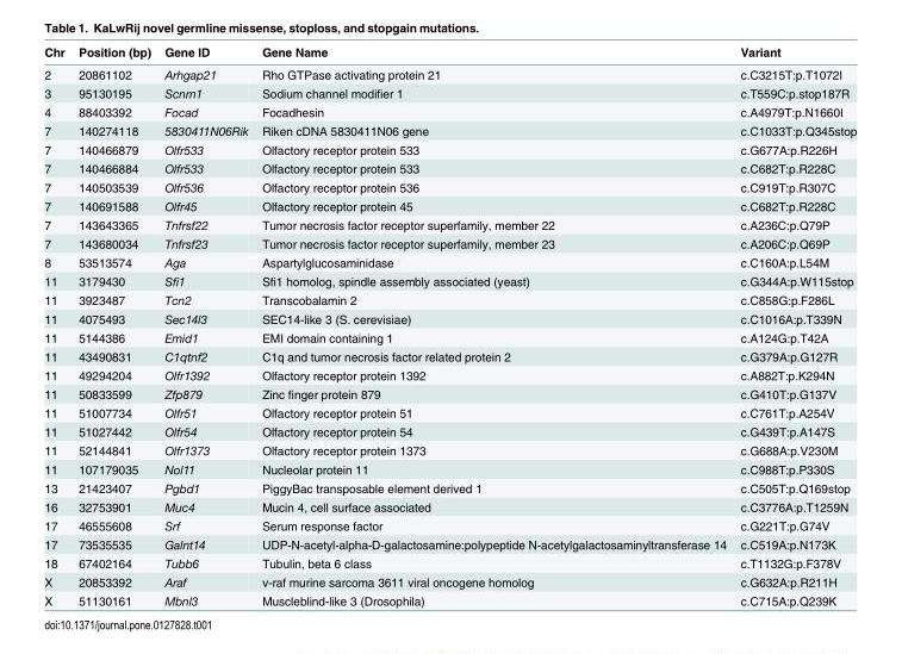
<table><thead><tr><td>Chr</td><td>Position (bp)</td><td>Gene ID</td><td>Gene Name</td><td>Variant</td></tr></thead><tbody><tr><td>2</td><td>20861102</td><td>Arhgap21</td><td>Rho GTPase activating protein 21</td><td>c.C3215T:p.T1072I</td></tr><tr><td>3</td><td>95130195</td><td>Scnm1</td><td>Sodium channel modifier 1</td><td>c.T559C:p.stop187R</td></tr><tr><td>4</td><td>88403392</td><td>Focad</td><td>Focadhesin</td><td>c.A4979T:p.N1660I</td></tr><tr><td>7</td><td>140274118</td><td>5830411N06Rik</td><td>Riken cDNA 5830411N06 gene</td><td>c.C1033T:p.Q345stop</td></tr><tr><td>7</td><td>140466879</td><td>Olfr533</td><td>Olfactory receptor protein 533</td><td>c.G677A:p.R226H</td></tr><tr><td>7</td><td>140466884</td><td>Olfr533</td><td>Olfactory receptor protein 533</td><td>c.C682T:p.R228C</td></tr><tr><td>7</td><td>140503539</td><td>Olfr536</td><td>Olfactory receptor protein 536</td><td>c.C919T:p.R307C</td></tr><tr><td>7</td><td>140691588</td><td>Olfr45</td><td>Olfactory receptor protein 45</td><td>c.C682T:p.R228C</td></tr><tr><td>7</td><td>143643365</td><td>Tnfrsf22</td><td>Tumor necrosis factor receptor superfamily, member 22</td><td>c.A236C:p.Q79P</td></tr><tr><td>7</td><td>143680034</td><td>Tnfrsf23</td><td>Tumor necrosis factor receptor superfamily, member 23</td><td>c.A206C:p.Q69P</td></tr><tr><td>8</td><td>53513574</td><td>Aga</td><td>Aspartylglucosaminidase</td><td>c.C160A:p.L54M</td></tr><tr><td>11</td><td>3179430</td><td>Sfi1</td><td>Sfi1 homolog, spindle assembly associated (yeast)</td><td>c.G344A:p.W115stop</td></tr><tr><td>11</td><td>3923487</td><td>Tcn2</td><td>Transcobalamin 2</td><td>c.C858G:p.F286L</td></tr><tr><td>11</td><td>4075493</td><td>Sec14l3</td><td>SEC14-like 3 (S. cerevisiae)</td><td>c.C1016A:p.T339N</td></tr><tr><td>11</td><td>5144386</td><td>Emid1</td><td>EMI domain containing 1</td><td>c.A124G:p.T42A</td></tr><tr><td>11</td><td>43490831</td><td>C1qtnf2</td><td>C1q and tumor necrosis factor related protein 2</td><td>c.G379A:p.G127R</td></tr><tr><td>11</td><td>49294204</td><td>Olfr1392</td><td>Olfactory receptor protein 1392</td><td>c.A882T:p.K294N</td></tr><tr><td>11</td><td>50833599</td><td>Zfp879</td><td>Zinc finger protein 879</td><td>c.G410T:p.G137V</td></tr><tr><td>11</td><td>51007734</td><td>Olfr51</td><td>Olfactory receptor protein 51</td><td>c.C761T:p.A254V</td></tr><tr><td>11</td><td>51027442</td><td>Olfr54</td><td>Olfactory receptor protein 54</td><td>c.G439T:p.A147S</td></tr><tr><td>11</td><td>52144841</td><td>Olfr1373</td><td>Olfactory receptor protein 1373</td><td>c.G688A:p.V230M</td></tr><tr><td>11</td><td>107179035</td><td>Nol11</td><td>Nucleolar protein 11</td><td>c.C988T:p.P330S</td></tr><tr><td>13</td><td>21423407</td><td>Pgbd1</td><td>PiggyBac transposable element derived 1</td><td>c.C505T:p.Q169stop</td></tr><tr><td>16</td><td>32753901</td><td>Muc4</td><td>Mucin 4, cell surface associated</td><td>c.C3776A:p.T1259N</td></tr><tr><td>17</td><td>46555608</td><td>Srf</td><td>Serum response factor</td><td>c.G221T:p.G74V</td></tr><tr><td>17</td><td>73535535</td><td>Galnt14</td><td>UDP-N-acetyl-alpha-D-galactosamine:polypeptide N-acetylgalactosaminyltransferase 14</td><td>c.C519A:p.N173K</td></tr><tr><td>18</td><td>67402164</td><td>Tubb6</td><td>Tubulin, beta 6 class</td><td>c.T1132G:p.F378V</td></tr><tr><td>X</td><td>20853392</td><td>Araf</td><td>v-raf murine sarcoma 3611 viral oncogene homolog</td><td>c.G632A:p.R211H</td></tr><tr><td>X</td><td>51130161</td><td>Mbnl3</td><td>Muscleblind-like 3 (Drosophila)</td><td>c.C715A:p.Q239K</td></tr></tbody></table>